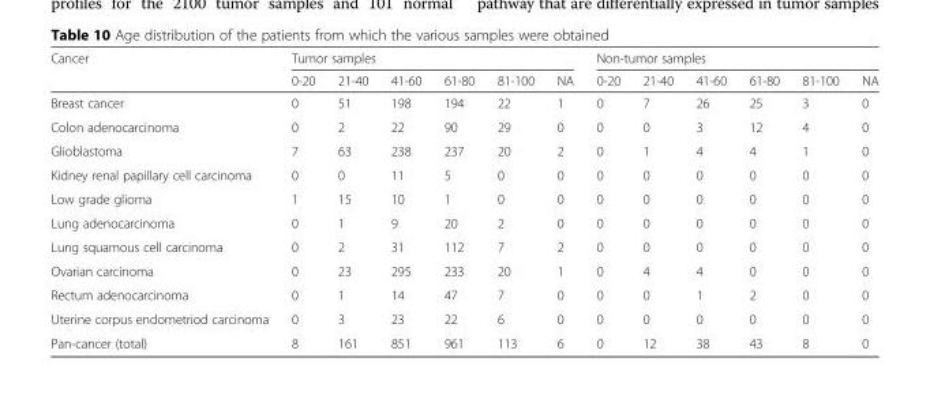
<table><thead><tr><td rowspan="2">Cancer</td><td colspan="6">Tumor samples</td><td colspan="6">Non-tumor samples</td></tr><tr><td>0-20</td><td>21-40</td><td>41-60</td><td>61-80</td><td>81-100</td><td>NA</td><td>0-20</td><td>21-40</td><td>41-60</td><td>61-80</td><td>81-100</td><td>NA</td></tr></thead><tbody><tr><td>Breast cancer</td><td>0</td><td>51</td><td>198</td><td>194</td><td>22</td><td>1</td><td>0</td><td>7</td><td>26</td><td>25</td><td>3</td><td>0</td></tr><tr><td>Colon adenocarcinoma</td><td>0</td><td>2</td><td>22</td><td>90</td><td>29</td><td>0</td><td>0</td><td>0</td><td>3</td><td>12</td><td>4</td><td>0</td></tr><tr><td>Glioblastoma</td><td>7</td><td>63</td><td>238</td><td>237</td><td>20</td><td>2</td><td>0</td><td>1</td><td>4</td><td>4</td><td>1</td><td>0</td></tr><tr><td>Kidney renal papillary cell carcinoma</td><td>0</td><td>0</td><td>11</td><td>5</td><td>0</td><td>0</td><td>0</td><td>0</td><td>0</td><td>0</td><td>0</td><td>0</td></tr><tr><td>Low grade glioma</td><td>1</td><td>15</td><td>10</td><td>1</td><td>0</td><td>0</td><td>0</td><td>0</td><td>0</td><td>0</td><td>0</td><td>0</td></tr><tr><td>Lung adenocarcinoma</td><td>0</td><td>1</td><td>9</td><td>20</td><td>2</td><td>0</td><td>0</td><td>0</td><td>0</td><td>0</td><td>0</td><td>0</td></tr><tr><td>Lung squamous cell carcinoma</td><td>0</td><td>2</td><td>31</td><td>112</td><td>7</td><td>2</td><td>0</td><td>0</td><td>0</td><td>0</td><td>0</td><td>0</td></tr><tr><td>Ovarian carcinoma</td><td>0</td><td>23</td><td>295</td><td>233</td><td>20</td><td>1</td><td>0</td><td>4</td><td>4</td><td>0</td><td>0</td><td>0</td></tr><tr><td>Rectum adenocarcinoma</td><td>0</td><td>1</td><td>14</td><td>47</td><td>7</td><td>0</td><td>0</td><td>0</td><td>1</td><td>2</td><td>0</td><td>0</td></tr><tr><td>Uterine corpus endometriod carcinoma</td><td>0</td><td>3</td><td>23</td><td>22</td><td>6</td><td>0</td><td>0</td><td>0</td><td>0</td><td>0</td><td>0</td><td>0</td></tr><tr><td>Pan-cancer (total)</td><td>8</td><td>161</td><td>851</td><td>961</td><td>113</td><td>6</td><td>0</td><td>12</td><td>38</td><td>43</td><td>8</td><td>0</td></tr></tbody></table>